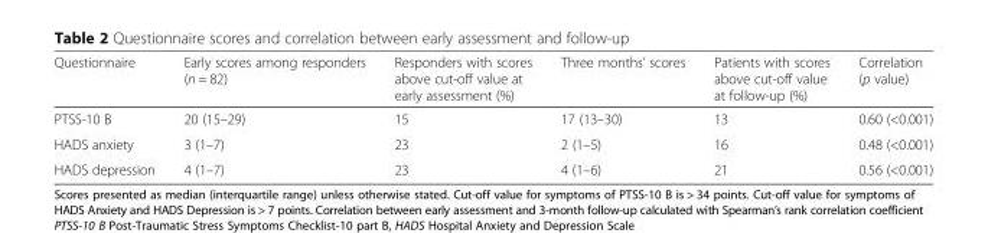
<table><thead><tr><td>Questionnaire</td><td>Early scores among responders (n = 82)</td><td>Responders with scores above cut-off value at early assessment (%)</td><td>Three months’ scores</td><td>Patients with scores above cut-off value at follow-up (%)</td><td>Correlation (p value)</td></tr></thead><tbody><tr><td>PTSS-10 B</td><td>20 (15–29)</td><td>15</td><td>17 (13–30)</td><td>13</td><td>0.60 (&lt;0.001)</td></tr><tr><td>HADS anxiety</td><td>3 (1–7)</td><td>23</td><td>2 (1–5)</td><td>16</td><td>0.48 (&lt;0.001)</td></tr><tr><td>HADS depression</td><td>4 (1–7)</td><td>23</td><td>4 (1–6)</td><td>21</td><td>0.56 (&lt;0.001)</td></tr></tbody></table>